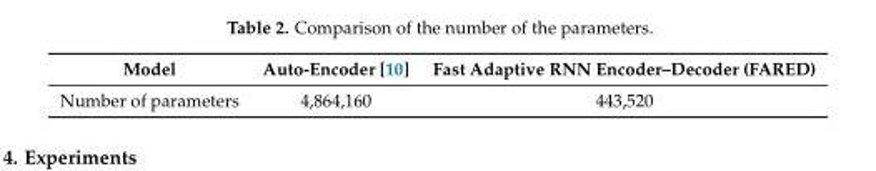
<table><thead><tr><td>Model</td><td>Auto-Encoder [10]</td><td>Fast Adaptive RNN Encoder–Decoder (FARED)</td></tr></thead><tbody><tr><td>Number of parameters</td><td>4,864,160</td><td>443,520</td></tr></tbody></table>